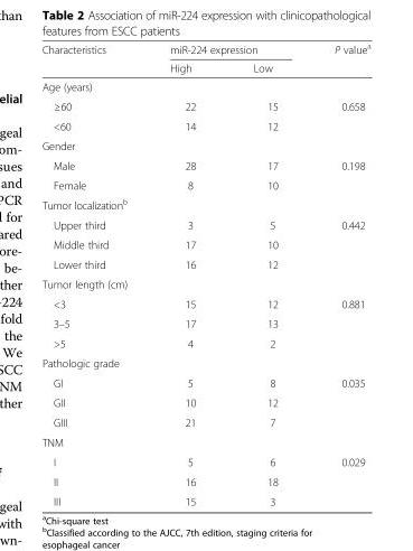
<table><thead><tr><td rowspan="2">Characteristics</td><td colspan="2">miR-224 expression</td><td rowspan="2">P value<sup>a</sup></td></tr><tr><td>High</td><td>Low</td></tr></thead><tbody><tr><td colspan="4">Age (years)</td></tr><tr><td>≥60</td><td>22</td><td>15</td><td rowspan="2">0.658</td></tr><tr><td>&lt;60</td><td>14</td><td>12</td></tr><tr><td colspan="4">Gender</td></tr><tr><td>Male</td><td>28</td><td>17</td><td rowspan="2">0.198</td></tr><tr><td>Female</td><td>8</td><td>10</td></tr><tr><td colspan="4">Tumor localization<sup>b</sup></td></tr><tr><td>Upper third</td><td>3</td><td>5</td><td rowspan="3">0.442</td></tr><tr><td>Middle third</td><td>17</td><td>10</td></tr><tr><td>Lower third</td><td>16</td><td>12</td></tr><tr><td colspan="4">Tumor length (cm)</td></tr><tr><td>&lt;3</td><td>15</td><td>12</td><td rowspan="3">0.881</td></tr><tr><td>3–5</td><td>17</td><td>13</td></tr><tr><td>&gt;5</td><td>4</td><td>2</td></tr><tr><td colspan="4">Pathologic grade</td></tr><tr><td>GI</td><td>5</td><td>8</td><td rowspan="3">0.035</td></tr><tr><td>GII</td><td>10</td><td>12</td></tr><tr><td>GIII</td><td>21</td><td>7</td></tr><tr><td colspan="4">TNM</td></tr><tr><td>I</td><td>5</td><td>6</td><td rowspan="3">0.029</td></tr><tr><td>II</td><td>16</td><td>18</td></tr><tr><td>III</td><td>15</td><td>3</td></tr></tbody></table>